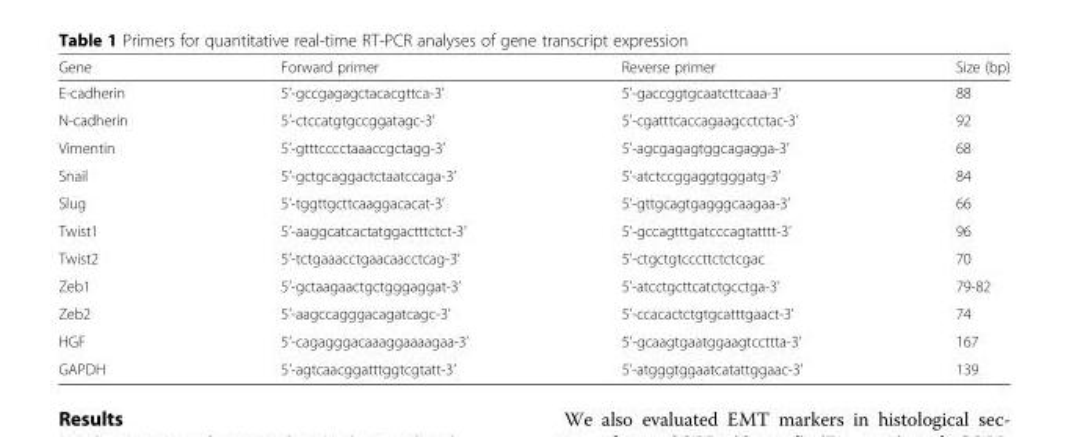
<table><thead><tr><td>Gene</td><td>Forward primer</td><td>Reverse primer</td><td>Size (bp)</td></tr></thead><tbody><tr><td>E-cadherin</td><td>5’-gccgagagctacacgttca-3’</td><td>5’-gaccggtgcaatcttcaaa-3’</td><td>88</td></tr><tr><td>N-cadherin</td><td>5’-ctccatgtgccggatagc-3’</td><td>5’-cgatttcaccagaagcctctac-3’</td><td>92</td></tr><tr><td>Vimentin</td><td>5’-gtttcccctaaaccgctagg-3’</td><td>5’-agcgagagtggcagagga-3’</td><td>68</td></tr><tr><td>Snail</td><td>5’-gctgcaggactctaatccaga-3’</td><td>5‘-atctccggaggtgggatg-3’</td><td>84</td></tr><tr><td>Slug</td><td>5’-tggttgcttcaaggacacat-3’</td><td>5‘-gttgcagtgagggcaagaa-3’</td><td>66</td></tr><tr><td>Twist1</td><td>5’-aaggcatcactatggactttctct-3’</td><td>5‘-gccagtttgatcccagtatttt-3’</td><td>96</td></tr><tr><td>Twist2</td><td>5’-tctgaaacctgaacaacctcag-3’</td><td>5’-ctgctgtcccttctctcgac</td><td>70</td></tr><tr><td>Zeb1</td><td>5’-gctaagaactgctgggaggat-3’</td><td>5’-atcctgcttcatctgcctga-3’</td><td>79-82</td></tr><tr><td>Zeb2</td><td>5’-aagccagggacagatcagc-3’</td><td>5’-ccacactctgtgcatttgaact-3’</td><td>74</td></tr><tr><td>HGF</td><td>5’-cagagggacaaaggaaaagaa-3’</td><td>5’-gcaagtgaatggaagtccttta-3’</td><td>167</td></tr><tr><td>GAPDH</td><td>5’-agtcaacggatttggtcgtatt-3’</td><td>5’-atgggtggaatcatattggaac-3’</td><td>139</td></tr></tbody></table>